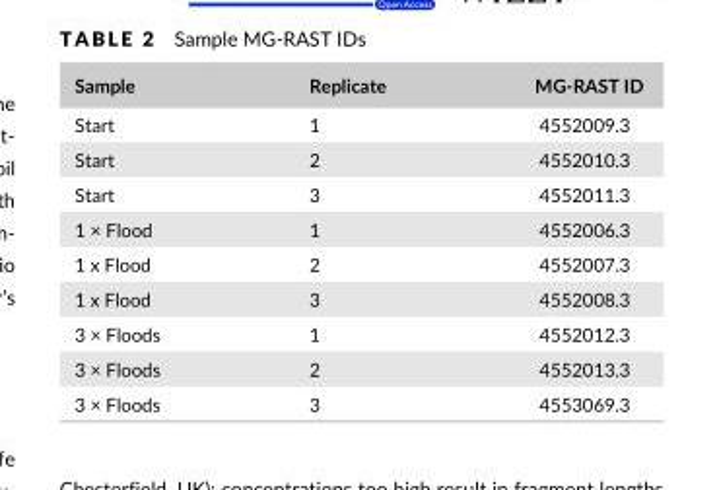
<table><thead><tr><td>Sample</td><td>Replicate</td><td>MG- RAST ID</td></tr></thead><tbody><tr><td>Start</td><td>1</td><td>4552009.3</td></tr><tr><td>Start</td><td>2</td><td>4552010.3</td></tr><tr><td>Start</td><td>3</td><td>4552011.3</td></tr><tr><td>1 × Flood</td><td>1</td><td>4552006.3</td></tr><tr><td>1 x Flood</td><td>2</td><td>4552007.3</td></tr><tr><td>1 x Flood</td><td>3</td><td>4552008.3</td></tr><tr><td>3 × Floods</td><td>1</td><td>4552012.3</td></tr><tr><td>3 × Floods</td><td>2</td><td>4552013.3</td></tr><tr><td>3 × Floods</td><td>3</td><td>4553069.3</td></tr></tbody></table>